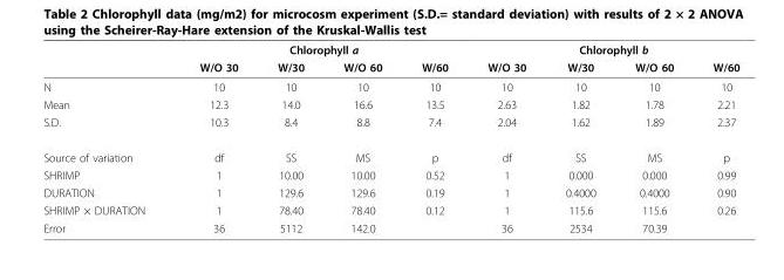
<table><thead><tr><td rowspan="2"></td><td colspan="4">Chlorophyll a</td><td colspan="4">Chlorophyll b</td></tr><tr><td>W/O 30</td><td>W/30</td><td>W/O 60</td><td>W/60</td><td>W/O 30</td><td>W/30</td><td>W/O 60</td><td>W/60</td></tr></thead><tbody><tr><td>N</td><td>10</td><td>10</td><td>10</td><td>10</td><td>10</td><td>10</td><td>10</td><td>10</td></tr><tr><td>Mean</td><td>12.3</td><td>14.0</td><td>16.6</td><td>13.5</td><td>2.63</td><td>1.82</td><td>1.78</td><td>2.21</td></tr><tr><td>S.D.</td><td>10.3</td><td>8.4</td><td>8.8</td><td>7.4</td><td>2.04</td><td>1.62</td><td>1.89</td><td>2.37</td></tr><tr><td>Source of variation</td><td>df</td><td>SS</td><td>MS</td><td>p</td><td>df</td><td>SS</td><td>MS</td><td>p</td></tr><tr><td>SHRIMP</td><td>1</td><td>10.00</td><td>10.00</td><td>0.52</td><td>1</td><td>0.000</td><td>0.000</td><td>0.99</td></tr><tr><td>DURATION</td><td>1</td><td>129.6</td><td>129.6</td><td>0.19</td><td>1</td><td>0.4000</td><td>0.4000</td><td>0.90</td></tr><tr><td>SHRIMP × DURATION</td><td>1</td><td>78.40</td><td>78.40</td><td>0.12</td><td>1</td><td>115.6</td><td>115.6</td><td>0.26</td></tr><tr><td>Error</td><td>36</td><td>5112</td><td>142.0</td><td></td><td>36</td><td>2534</td><td>70.39</td><td></td></tr></tbody></table>